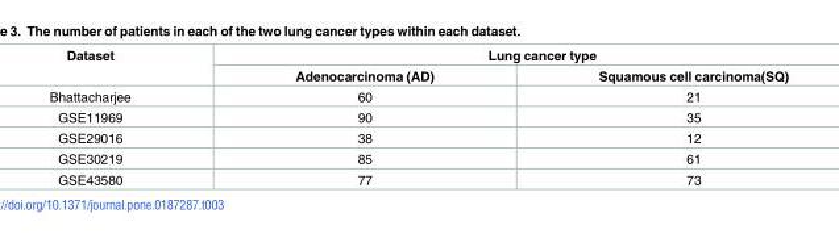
<table><thead><tr><td rowspan="2">Dataset</td><td colspan="2">Lung cancer type</td></tr><tr><td>Adenocarcinoma (AD)</td><td>Squamous cell carcinoma(SQ)</td></tr></thead><tbody><tr><td>Bhattacharjee</td><td>60</td><td>21</td></tr><tr><td>GSE11969</td><td>90</td><td>35</td></tr><tr><td>GSE29016</td><td>38</td><td>12</td></tr><tr><td>GSE30219</td><td>85</td><td>61</td></tr><tr><td>GSE43580</td><td>77</td><td>73</td></tr></tbody></table>